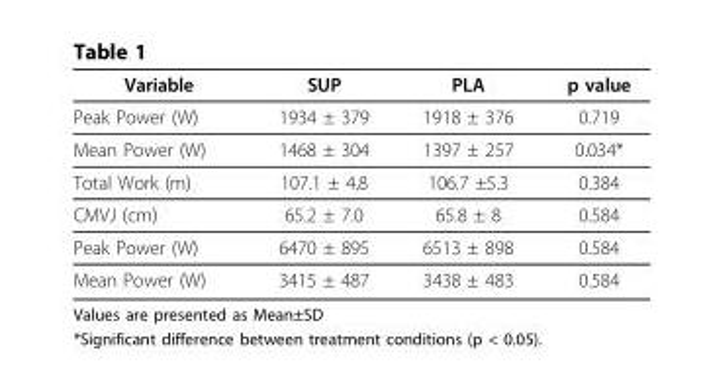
<table><thead><tr><td>Variable</td><td>SUP</td><td>PLA</td><td>p value</td></tr></thead><tbody><tr><td>Peak Power (W)</td><td>1934 ± 379</td><td>1918 ± 376</td><td>0.719</td></tr><tr><td>Mean Power (W)</td><td>1468 ± 304</td><td>1397 ± 257</td><td>0.034*</td></tr><tr><td>Total Work (m)</td><td>107.1 ± 4.8</td><td>106.7 ±5.3</td><td>0.384</td></tr><tr><td>CMVJ (cm)</td><td>65.2 ± 7.0</td><td>65.8 ± 8</td><td>0.584</td></tr><tr><td>Peak Power (W)</td><td>6470 ± 895</td><td>6513 ± 898</td><td>0.584</td></tr><tr><td>Mean Power (W)</td><td>3415 ± 487</td><td>3438 ± 483</td><td>0.584</td></tr></tbody></table>